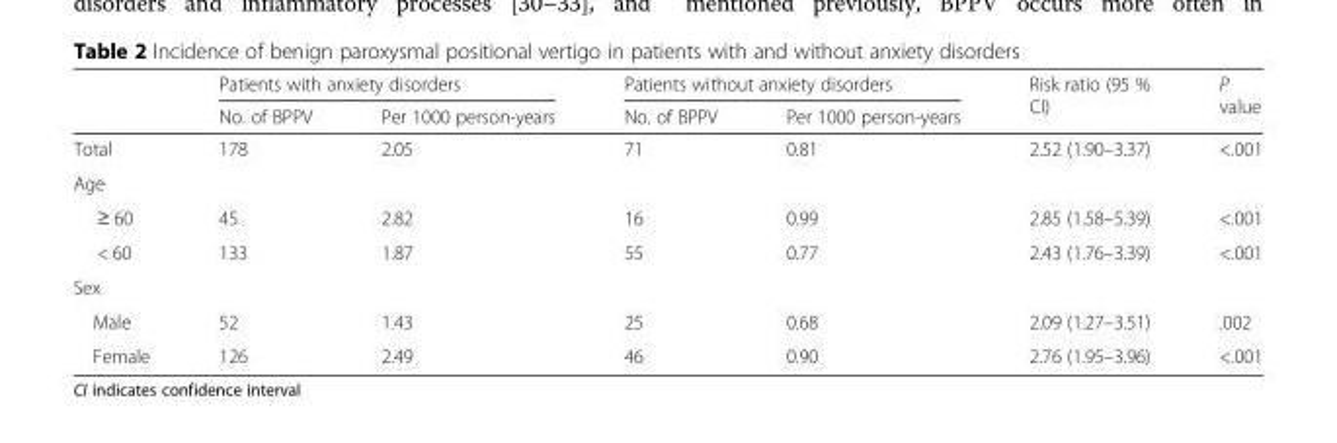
<table><thead><tr><td rowspan="2"></td><td colspan="2">Patients with anxiety disorders</td><td colspan="2">Patients without anxiety disorders</td><td rowspan="2">Risk ratio (95 % CI)</td><td rowspan="2">P value</td></tr><tr><td>No. of BPPV</td><td>Per 1000 person-years</td><td>No. of BPPV</td><td>Per 1000 person-years</td></tr></thead><tbody><tr><td>Total</td><td>178</td><td>2.05</td><td>71</td><td>0.81</td><td>2.52 (1.90–3.37)</td><td>&lt;.001</td></tr><tr><td colspan="7">Age</td></tr><tr><td>≥ 60</td><td>45</td><td>2.82</td><td>16</td><td>0.99</td><td>2.85 (1.58–5.39)</td><td>&lt;.001</td></tr><tr><td>&lt; 60</td><td>133</td><td>1.87</td><td>55</td><td>0.77</td><td>2.43 (1.76–3.39)</td><td>&lt;.001</td></tr><tr><td colspan="7">Sex</td></tr><tr><td>Male</td><td>52</td><td>1.43</td><td>25</td><td>0.68</td><td>2.09 (1.27–3.51)</td><td>.002</td></tr><tr><td>Female</td><td>126</td><td>2.49</td><td>46</td><td>0.90</td><td>2.76 (1.95–3.96)</td><td>&lt;.001</td></tr></tbody></table>